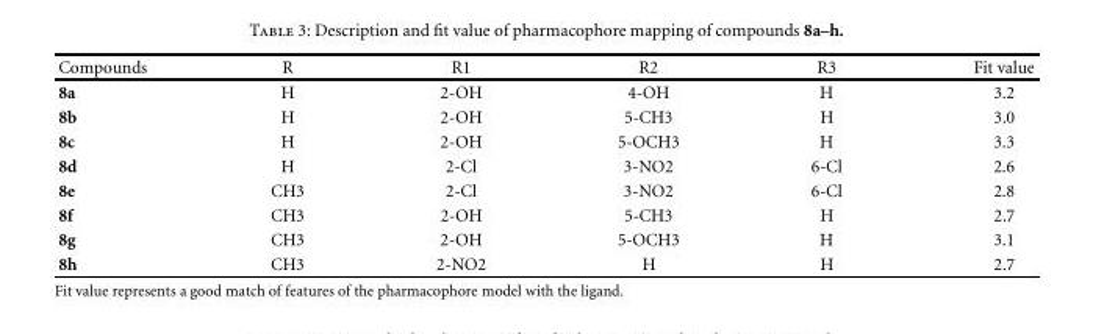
<table><thead><tr><td>Compounds</td><td>R</td><td>R1</td><td>R2</td><td>R3</td><td>Fit value</td></tr></thead><tbody><tr><td>8a</td><td>H</td><td>2-OH</td><td>4-OH</td><td>H</td><td>3.2</td></tr><tr><td>8b</td><td>H</td><td>2-OH</td><td>5-CH3</td><td>H</td><td>3.0</td></tr><tr><td>8c</td><td>H</td><td>2-OH</td><td>5-OCH3</td><td>H</td><td>3.3</td></tr><tr><td>8d</td><td>H</td><td>2-Cl</td><td>3-NO2</td><td>6-Cl</td><td>2.6</td></tr><tr><td>8e</td><td>CH3</td><td>2-Cl</td><td>3-NO2</td><td>6-Cl</td><td>2.8</td></tr><tr><td>8f</td><td>CH3</td><td>2-OH</td><td>5-CH3</td><td>H</td><td>2.7</td></tr><tr><td>8g</td><td>CH3</td><td>2-OH</td><td>5-OCH3</td><td>H</td><td>3.1</td></tr><tr><td>8h</td><td>CH3</td><td>2-NO2</td><td>H</td><td>H</td><td>2.7</td></tr></tbody></table>